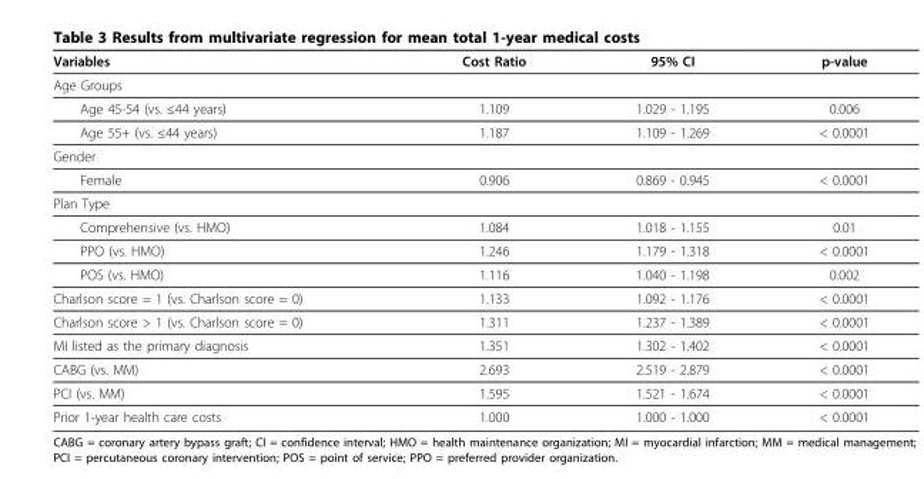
<table><thead><tr><td>Variables</td><td>Cost Ratio</td><td>95% CI</td><td>p-value</td></tr></thead><tbody><tr><td colspan="4">Age Groups</td></tr><tr><td>Age 45-54 (vs. ≤44 years)</td><td>1.109</td><td>1.029 - 1.195</td><td>0.006</td></tr><tr><td>Age 55+ (vs. ≤44 years)</td><td>1.187</td><td>1.109 - 1.269</td><td>&lt; 0.0001</td></tr><tr><td colspan="4">Gender</td></tr><tr><td>Female</td><td>0.906</td><td>0.869 - 0.945</td><td>&lt; 0.0001</td></tr><tr><td colspan="4">Plan Type</td></tr><tr><td>Comprehensive (vs. HMO)</td><td>1.084</td><td>1.018 - 1.155</td><td>0.01</td></tr><tr><td>PPO (vs. HMO)</td><td>1.246</td><td>1.179 - 1.318</td><td>&lt; 0.0001</td></tr><tr><td>POS (vs. HMO)</td><td>1.116</td><td>1.040 - 1.198</td><td>0.002</td></tr><tr><td>Charlson score = 1 (vs. Charlson score = 0)</td><td>1.133</td><td>1.092 - 1.176</td><td>&lt; 0.0001</td></tr><tr><td>Charlson score &gt; 1 (vs. Charlson score = 0)</td><td>1.311</td><td>1.237 - 1.389</td><td>&lt; 0.0001</td></tr><tr><td>MI listed as the primary diagnosis</td><td>1.351</td><td>1.302 - 1.402</td><td>&lt; 0.0001</td></tr><tr><td>CABG (vs. MM)</td><td>2.693</td><td>2.519 - 2.879</td><td>&lt; 0.0001</td></tr><tr><td>PCI (vs. MM)</td><td>1.595</td><td>1.521 - 1.674</td><td>&lt; 0.0001</td></tr><tr><td>Prior 1-year health care costs</td><td>1.000</td><td>1.000 - 1.000</td><td>&lt; 0.0001</td></tr></tbody></table>